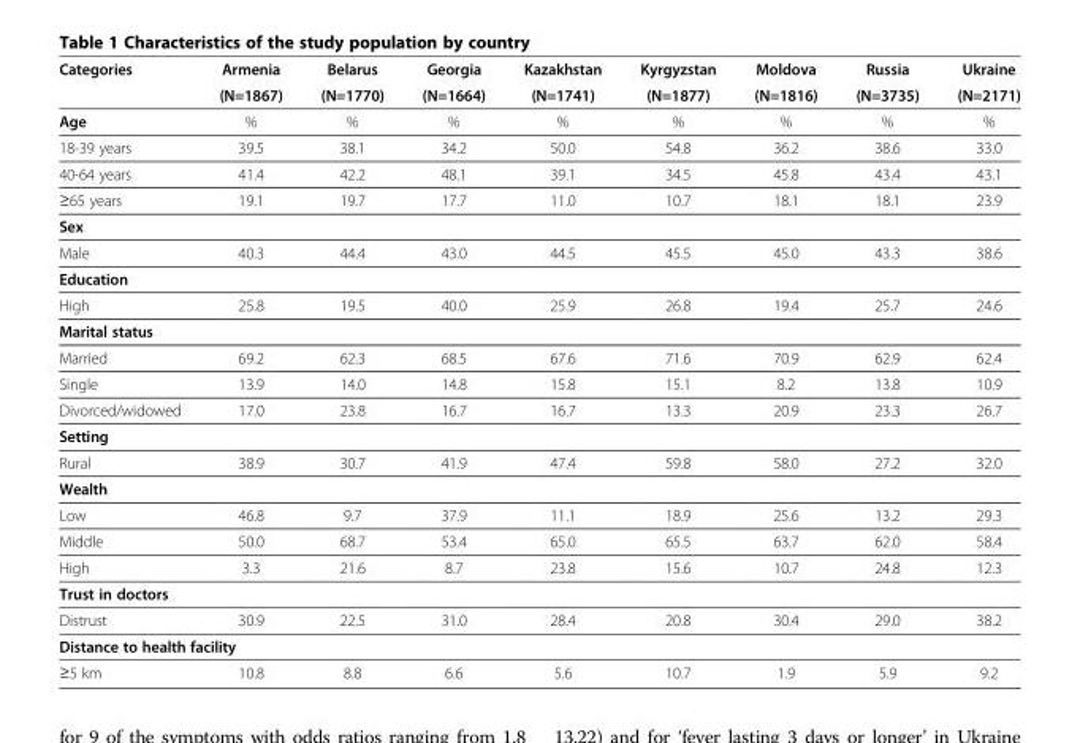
<table><thead><tr><td rowspan="2">Categories</td><td rowspan="2">Armenia (N=1867)</td><td rowspan="2">Belarus (N=1770)</td><td rowspan="2">Georgia (N=1664)</td><td rowspan="2">Kazakhstan (N=1741)</td><td rowspan="2">Kyrgyzstan (N=1877)</td><td rowspan="2">Moldova (N=1816)</td><td rowspan="2">Russia (N=3735)</td><td rowspan="2">Ukraine (N=2171)</td></tr><tr></tr></thead><tbody><tr><td>Age</td><td>%</td><td>%</td><td>%</td><td>%</td><td>%</td><td>%</td><td>%</td><td>%</td></tr><tr><td>18-39 years</td><td>39.5</td><td>38.1</td><td>34.2</td><td>50.0</td><td>54.8</td><td>36.2</td><td>38.6</td><td>33.0</td></tr><tr><td>40-64 years</td><td>41.4</td><td>42.2</td><td>48.1</td><td>39.1</td><td>34.5</td><td>45.8</td><td>43.4</td><td>43.1</td></tr><tr><td>≥65 years</td><td>19.1</td><td>19.7</td><td>17.7</td><td>11.0</td><td>10.7</td><td>18.1</td><td>18.1</td><td>23.9</td></tr><tr><td colspan="9">Sex</td></tr><tr><td>Male</td><td>40.3</td><td>44.4</td><td>43.0</td><td>44.5</td><td>45.5</td><td>45.0</td><td>43.3</td><td>38.6</td></tr><tr><td colspan="9">Education</td></tr><tr><td>High</td><td>25.8</td><td>19.5</td><td>40.0</td><td>25.9</td><td>26.8</td><td>19.4</td><td>25.7</td><td>24.6</td></tr><tr><td colspan="9">Marital status</td></tr><tr><td>Married</td><td>69.2</td><td>62.3</td><td>68.5</td><td>67.6</td><td>71.6</td><td>70.9</td><td>62.9</td><td>62.4</td></tr><tr><td>Single</td><td>13.9</td><td>14.0</td><td>14.8</td><td>15.8</td><td>15.1</td><td>8.2</td><td>13.8</td><td>10.9</td></tr><tr><td>Divorced/widowed</td><td>17.0</td><td>23.8</td><td>16.7</td><td>16.7</td><td>13.3</td><td>20.9</td><td>23.3</td><td>26.7</td></tr><tr><td colspan="9">Setting</td></tr><tr><td>Rural</td><td>38.9</td><td>30.7</td><td>41.9</td><td>47.4</td><td>59.8</td><td>58.0</td><td>27.2</td><td>32.0</td></tr><tr><td colspan="9">Wealth</td></tr><tr><td>Low</td><td>46.8</td><td>9.7</td><td>37.9</td><td>11.1</td><td>18.9</td><td>25.6</td><td>13.2</td><td>29.3</td></tr><tr><td>Middle</td><td>50.0</td><td>68.7</td><td>53.4</td><td>65.0</td><td>65.5</td><td>63.7</td><td>62.0</td><td>58.4</td></tr><tr><td>High</td><td>3.3</td><td>21.6</td><td>8.7</td><td>23.8</td><td>15.6</td><td>10.7</td><td>24.8</td><td>12.3</td></tr><tr><td colspan="9">Trust in doctors</td></tr><tr><td>Distrust</td><td>30.9</td><td>22.5</td><td>31.0</td><td>28.4</td><td>20.8</td><td>30.4</td><td>29.0</td><td>38.2</td></tr><tr><td colspan="9">Distance to health facility</td></tr><tr><td>≥5 km</td><td>10.8</td><td>8.8</td><td>6.6</td><td>5.6</td><td>10.7</td><td>1.9</td><td>5.9</td><td>9.2</td></tr></tbody></table>